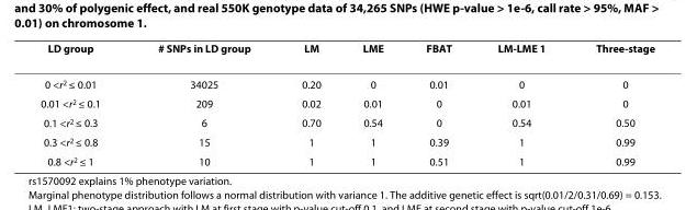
<table><thead><tr><td>LD group</td><td># SNPs in LD group</td><td>LM</td><td>LME</td><td>FBAT</td><td>LM-LME 1</td><td>Three-stage</td></tr></thead><tbody><tr><td>0 &lt;r<sup>2</sup> ≤ 0.01</td><td>34025</td><td>0.20</td><td>0</td><td>0.01</td><td>0</td><td>0</td></tr><tr><td>0.01 &lt;r<sup>2</sup> ≤ 0.1</td><td>209</td><td>0.02</td><td>0.01</td><td>0</td><td>0.01</td><td>0</td></tr><tr><td>0.1 &lt;r<sup>2</sup> ≤ 0.3</td><td>6</td><td>0.70</td><td>0.54</td><td>0</td><td>0.54</td><td>0.50</td></tr><tr><td>0.3 &lt;r<sup>2</sup> ≤ 0.8</td><td>15</td><td>1</td><td>1</td><td>0.39</td><td>1</td><td>0.99</td></tr><tr><td>0.8 &lt;r<sup>2</sup> ≤ 1</td><td>10</td><td>1</td><td>1</td><td>0.51</td><td>1</td><td>0.99</td></tr></tbody></table>